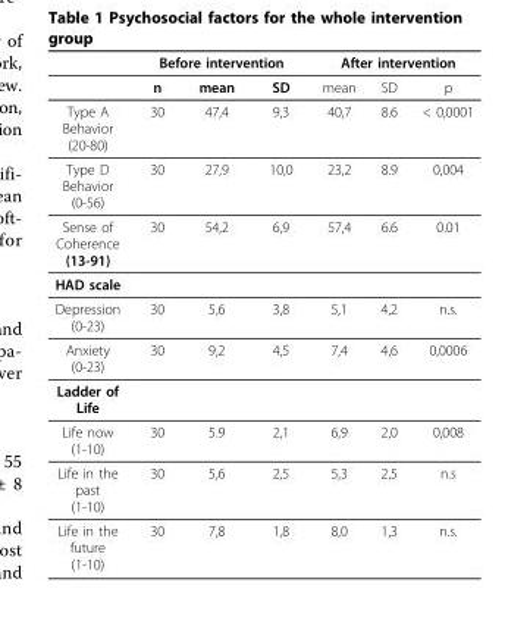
<table><thead><tr><td rowspan="2"></td><td colspan="3">Before intervention</td><td colspan="3">After intervention</td></tr><tr><td>n</td><td>mean</td><td>SD</td><td>mean</td><td>SD</td><td>p</td></tr></thead><tbody><tr><td>Type A Behavior (20-80)</td><td>30</td><td>47,4</td><td>9,3</td><td>40,7</td><td>8.6</td><td>&lt; 0,0001</td></tr><tr><td>Type D Behavior (0-56)</td><td>30</td><td>27,9</td><td>10,0</td><td>23,2</td><td>8.9</td><td>0,004</td></tr><tr><td>Sense of Coherence (13-91)</td><td>30</td><td>54,2</td><td>6,9</td><td>57,4</td><td>6.6</td><td>0.01</td></tr><tr><td colspan="7">HAD scale</td></tr><tr><td>Depression (0-23)</td><td>30</td><td>5,6</td><td>3,8</td><td>5,1</td><td>4,2</td><td>n.s.</td></tr><tr><td>Anxiety (0-23)</td><td>30</td><td>9,2</td><td>4,5</td><td>7,4</td><td>4,6</td><td>0,0006</td></tr><tr><td colspan="7">Ladder of Life</td></tr><tr><td>Life now (1-10)</td><td>30</td><td>5.9</td><td>2,1</td><td>6,9</td><td>2,0</td><td>0,008</td></tr><tr><td>Life in the past (1-10)</td><td>30</td><td>5,6</td><td>2,5</td><td>5,3</td><td>2,5</td><td>n.s</td></tr><tr><td>Life in the future (1-10)</td><td>30</td><td>7,8</td><td>1,8</td><td>8,0</td><td>1,3</td><td>n.s.</td></tr></tbody></table>